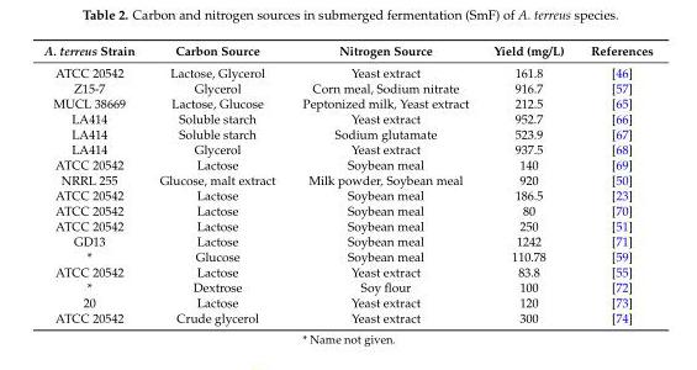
<table><thead><tr><td>A. terreus Strain</td><td>Carbon Source</td><td>Nitrogen Source</td><td>Yield (mg/L)</td><td>References</td></tr></thead><tbody><tr><td>ATCC 20542</td><td>Lactose, Glycerol</td><td>Yeast extract</td><td>161.8</td><td>[46]</td></tr><tr><td>Z15-7</td><td>Glycerol</td><td>Corn meal, Sodium nitrate</td><td>916.7</td><td>[57]</td></tr><tr><td>MUCL 38669</td><td>Lactose, Glucose</td><td>Peptonized milk, Yeast extract</td><td>212.5</td><td>[65]</td></tr><tr><td>LA414</td><td>Soluble starch</td><td>Yeast extract</td><td>952.7</td><td>[66]</td></tr><tr><td>LA414</td><td>Soluble starch</td><td>Sodium glutamate</td><td>523.9</td><td>[67]</td></tr><tr><td>LA414</td><td>Glycerol</td><td>Yeast extract</td><td>937.5</td><td>[68]</td></tr><tr><td>ATCC 20542</td><td>Lactose</td><td>Soybean meal</td><td>140</td><td>[69]</td></tr><tr><td>NRRL 255</td><td>Glucose, malt extract</td><td>Milk powder, Soybean meal</td><td>920</td><td>[50]</td></tr><tr><td>ATCC 20542</td><td>Lactose</td><td>Soybean meal</td><td>186.5</td><td>[23]</td></tr><tr><td>ATCC 20542</td><td>Lactose</td><td>Soybean meal</td><td>80</td><td>[70]</td></tr><tr><td>ATCC 20542</td><td>Lactose</td><td>Soybean meal</td><td>250</td><td>[51]</td></tr><tr><td>GD13</td><td>Lactose</td><td>Soybean meal</td><td>1242</td><td>[71]</td></tr><tr><td>*</td><td>Glucose</td><td>Soybean meal</td><td>110.78</td><td>[59]</td></tr><tr><td>ATCC 20542</td><td>Lactose</td><td>Yeast extract</td><td>83.8</td><td>[55]</td></tr><tr><td>*</td><td>Dextrose</td><td>Soy flour</td><td>100</td><td>[72]</td></tr><tr><td>20</td><td>Lactose</td><td>Yeast extract</td><td>120</td><td>[73]</td></tr><tr><td>ATCC 20542</td><td>Crude glycerol</td><td>Yeast extract</td><td>300</td><td>[74]</td></tr></tbody></table>